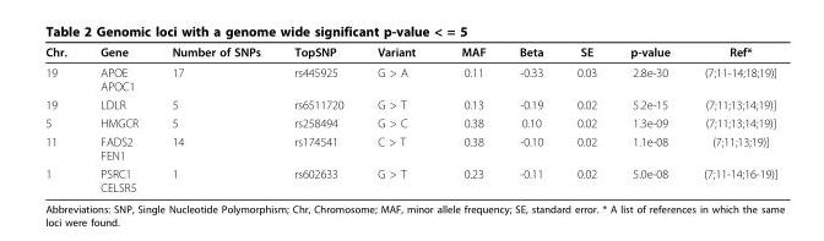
<table><thead><tr><td>Chr.</td><td>Gene</td><td>Number of SNPs</td><td>TopSNP</td><td>Variant</td><td>MAF</td><td>Beta</td><td>SE</td><td>p-value</td><td>Ref*</td></tr></thead><tbody><tr><td>19</td><td>APOE APOC1</td><td>17</td><td>rs445925</td><td>G &gt; A</td><td>0.11</td><td>-0.33</td><td>0.03</td><td>2.8e-30</td><td>(7;11-14;18;19)]</td></tr><tr><td>19</td><td>LDLR</td><td>5</td><td>rs6511720</td><td>G &gt; T</td><td>0.13</td><td>-0.19</td><td>0.02</td><td>5.2e-15</td><td>(7;11;13;14;19)]</td></tr><tr><td>5</td><td>HMGCR</td><td>5</td><td>rs258494</td><td>G &gt; C</td><td>0.38</td><td>0.10</td><td>0.02</td><td>1.3e-09</td><td>(7;11;13;14;19)]</td></tr><tr><td>11</td><td>FADS2 FEN1</td><td>14</td><td>rs174541</td><td>C &gt; T</td><td>0.38</td><td>-0.10</td><td>0.02</td><td>1.1e-08</td><td>(7;11;13;19)]</td></tr><tr><td>1</td><td>PSRC1 CELSR5</td><td>1</td><td>rs602633</td><td>G &gt; T</td><td>0.23</td><td>-0.11</td><td>0.02</td><td>5.0e-08</td><td>(7;11-14;16-19)]</td></tr></tbody></table>